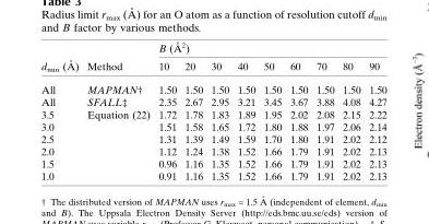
<table><thead><tr><td rowspan="2">dmin (A˚ )</td><td rowspan="2">Method</td><td colspan="9">B (A˚ 2)</td></tr><tr><td>10</td><td>20</td><td>30</td><td>40</td><td>50</td><td>60</td><td>70</td><td>80</td><td>90</td></tr></thead><tbody><tr><td>All</td><td>MAPMAN†</td><td>1.50</td><td>1.50</td><td>1.50</td><td>1.50</td><td>1.50</td><td>1.50</td><td>1.50</td><td>1.50</td><td>1.50</td></tr><tr><td>All</td><td>SFALL‡</td><td>2.35</td><td>2.67</td><td>2.95</td><td>3.21</td><td>3.45</td><td>3.67</td><td>3.88</td><td>4.08</td><td>4.27</td></tr><tr><td>3.5</td><td rowspan="6">Equation (22)</td><td>1.72</td><td>1.78</td><td>1.83</td><td>1.89</td><td>1.95</td><td>2.02</td><td>2.08</td><td>2.15</td><td>2.22</td></tr><tr><td>3.0</td><td>1.51</td><td>1.58</td><td>1.65</td><td>1.72</td><td>1.80</td><td>1.88</td><td>1.97</td><td>2.06</td><td>2.14</td></tr><tr><td>2.5</td><td>1.31</td><td>1.39</td><td>1.49</td><td>1.59</td><td>1.70</td><td>1.80</td><td>1.91</td><td>2.02</td><td>2.12</td></tr><tr><td>2.0</td><td>1.12</td><td>1.24</td><td>1.38</td><td>1.52</td><td>1.66</td><td>1.79</td><td>1.91</td><td>2.02</td><td>2.13</td></tr><tr><td>1.5</td><td>0.96</td><td>1.16</td><td>1.35</td><td>1.52</td><td>1.66</td><td>1.79</td><td>1.91</td><td>2.02</td><td>2.13</td></tr><tr><td>1.0</td><td>0.91</td><td>1.16</td><td>1.35</td><td>1.52</td><td>1.66</td><td>1.79</td><td>1.91</td><td>2.02</td><td>2.13</td></tr></tbody></table>